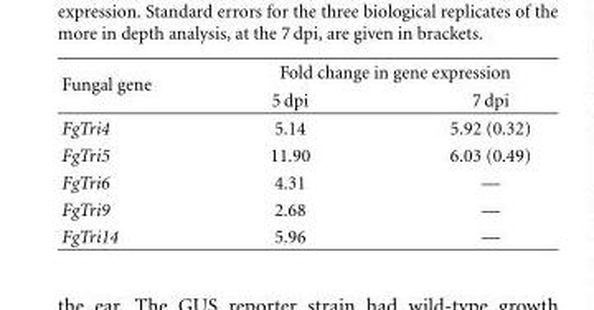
<table><thead><tr><td rowspan="2">Fungal gene</td><td colspan="2">Fold change in gene expression</td></tr><tr><td>5 dpi</td><td>7 dpi</td></tr></thead><tbody><tr><td>FgTri4</td><td>5.14</td><td>5.92 (0.32)</td></tr><tr><td>FgTri5</td><td>11.90</td><td>6.03 (0.49)</td></tr><tr><td>FgTri6</td><td>4.31</td><td>—</td></tr><tr><td>FgTri9</td><td>2.68</td><td>—</td></tr><tr><td>FgTri14</td><td>5.96</td><td>—</td></tr></tbody></table>